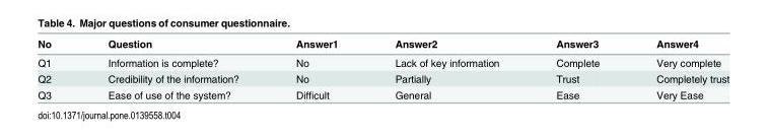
<table><thead><tr><td>No</td><td>Question</td><td>Answer1</td><td>Answer2</td><td>Answer3</td><td>Answer4</td></tr></thead><tbody><tr><td>Q1</td><td>Information is complete?</td><td>No</td><td>Lack of key information</td><td>Complete</td><td>Very complete</td></tr><tr><td>Q2</td><td>Credibility of the information?</td><td>No</td><td>Partially</td><td>Trust</td><td>Completely trust</td></tr><tr><td>Q3</td><td>Ease of use of the system?</td><td>Difficult</td><td>General</td><td>Ease</td><td>Very Ease</td></tr></tbody></table>